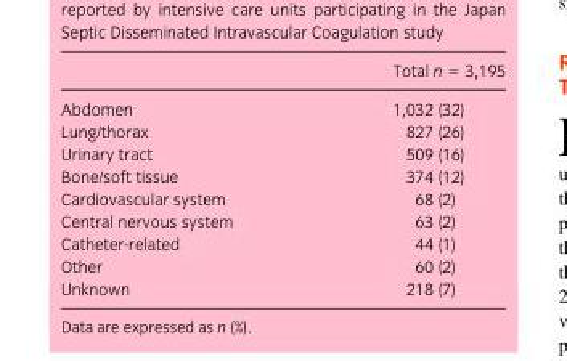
<table><thead><tr><td></td><td>Total n = 3,195</td></tr></thead><tbody><tr><td>Abdomen</td><td>1,032 (32)</td></tr><tr><td>Lung/thorax</td><td>827 (26)</td></tr><tr><td>Urinary tract</td><td>509 (16)</td></tr><tr><td>Bone/soft tissue</td><td>374 (12)</td></tr><tr><td>Cardiovascular system</td><td>68 (2)</td></tr><tr><td>Central nervous system</td><td>63 (2)</td></tr><tr><td>Catheter-related</td><td>44 (1)</td></tr><tr><td>Other</td><td>60 (2)</td></tr><tr><td>Unknown</td><td>218 (7)</td></tr></tbody></table>